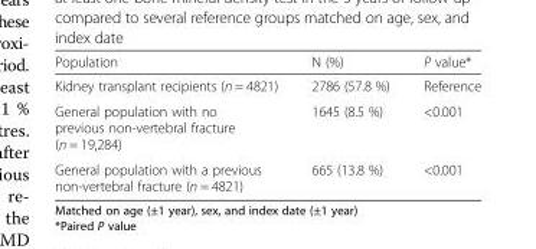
<table><thead><tr><td>Population</td><td>N (%)</td><td>P value*</td></tr></thead><tbody><tr><td>Kidney transplant recipients (n = 4821)</td><td>2786 (57.8 %)</td><td>Reference</td></tr><tr><td>General population with no previous non-vertebral fracture (n = 19,284)</td><td>1645 (8.5 %)</td><td>&lt;0.001</td></tr><tr><td>General population with a previous non-vertebral fracture (n = 4821)</td><td>665 (13.8 %)</td><td>&lt;0.001</td></tr></tbody></table>